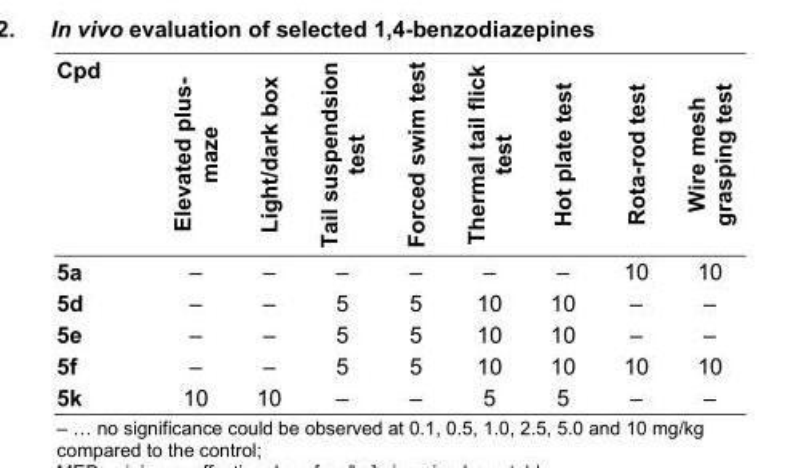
<table><thead><tr><td>Cpd</td><td>Elevated plus- maze</td><td>Light/dark box</td><td>Tail suspendsion test</td><td>Forced swim test</td><td>Thermal tail flick test</td><td>Hot plate test</td><td>Rota-rod test</td><td>Wire mesh grasping test</td></tr></thead><tbody><tr><td>5a</td><td>–</td><td>–</td><td>–</td><td>–</td><td>–</td><td>–</td><td>10</td><td>10</td></tr><tr><td>5d</td><td>–</td><td>–</td><td>5</td><td>5</td><td>10</td><td>10</td><td>–</td><td>–</td></tr><tr><td>5e</td><td>–</td><td>–</td><td>5</td><td>5</td><td>10</td><td>10</td><td>–</td><td>–</td></tr><tr><td>5f</td><td>–</td><td>–</td><td>5</td><td>5</td><td>10</td><td>10</td><td>10</td><td>10</td></tr><tr><td>5k</td><td>10</td><td>10</td><td>–</td><td>–</td><td>5</td><td>5</td><td>–</td><td>–</td></tr></tbody></table>